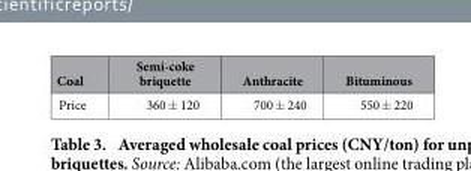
<table><thead><tr><td>Coal</td><td>Semi-coke briquette</td><td>Anthracite</td><td>Bituminous</td></tr></thead><tbody><tr><td>Price</td><td>360 ± 120</td><td>700 ± 240</td><td>550 ± 220</td></tr></tbody></table>